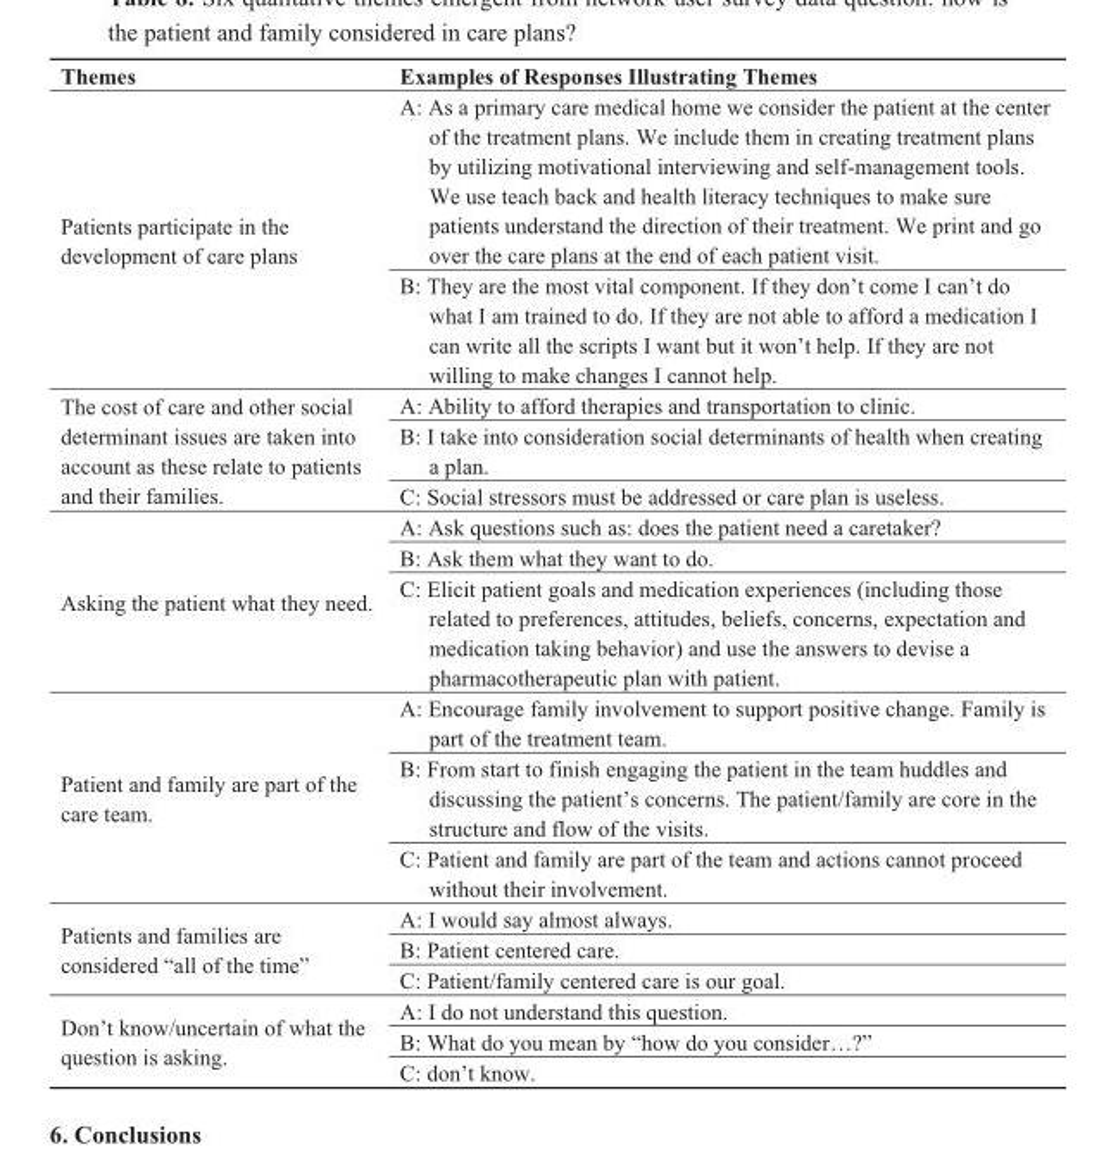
<table><thead><tr><td>Themes</td><td>Examples of Responses Illustrating Themes</td></tr></thead><tbody><tr><td rowspan="2">Patients participate in the development of care plans</td><td>A: As a primary care medical home we consider the patient at the center of the treatment plans. We include them in creating treatment plans by utilizing motivational interviewing and self-management tools. We use teach back and health literacy techniques to make sure patients understand the direction of their treatment. We print and go over the care plans at the end of each patient visit.</td></tr><tr><td>B: They are the most vital component. If they don’t come I can’t do what I am trained to do. If they are not able to afford a medication I can write all the scripts I want but it won’t help. If they are not willing to make changes I cannot help.</td></tr><tr><td rowspan="3">The cost of care and other social determinant issues are taken into account as these relate to patients and their families.</td><td>A: Ability to afford therapies and transportation to clinic.</td></tr><tr><td>B: I take into consideration social determinants of health when creating a plan.</td></tr><tr><td>C: Social stressors must be addressed or care plan is useless.</td></tr><tr><td rowspan="3">Asking the patient what they need.</td><td>A: Ask questions such as: does the patient need a caretaker?</td></tr><tr><td>B: Ask them what they want to do.</td></tr><tr><td>C: Elicit patient goals and medication experiences (including those related to preferences, attitudes, beliefs, concerns, expectation and medication taking behavior) and use the answers to devise a pharmacotherapeutic plan with patient.</td></tr><tr><td rowspan="3">Patient and family are part of the care team.</td><td>A: Encourage family involvement to support positive change. Family is part of the treatment team.</td></tr><tr><td>B: From start to finish engaging the patient in the team huddles and discussing the patient’s concerns. The patient/family are core in the structure and flow of the visits.</td></tr><tr><td>C: Patient and family are part of the team and actions cannot proceed without their involvement.</td></tr><tr><td rowspan="3">Patients and families are considered “all of the time”</td><td>A: I would say almost always.</td></tr><tr><td>B: Patient centered care.</td></tr><tr><td>C: Patient/family centered care is our goal.</td></tr><tr><td rowspan="3">Don’t know/uncertain of what the question is asking.</td><td>A: I do not understand this question.</td></tr><tr><td>B: What do you mean by “how do you consider…?”</td></tr><tr><td>C: don’t know.</td></tr></tbody></table>